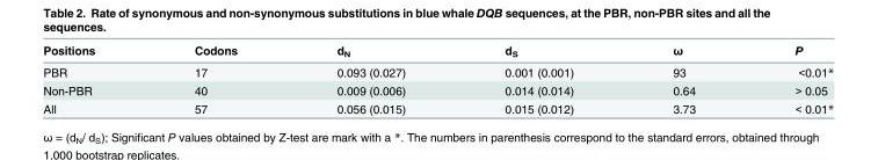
<table><thead><tr><td>Positions</td><td>Codons</td><td>d<sub>N</sub></td><td>d<sub>S</sub></td><td>ω</td><td>P</td></tr></thead><tbody><tr><td>PBR</td><td>17</td><td>0.093 (0.027)</td><td>0.001 (0.001)</td><td>93</td><td>&lt;0.01*</td></tr><tr><td>Non-PBR</td><td>40</td><td>0.009 (0.006)</td><td>0.014 (0.014)</td><td>0.64</td><td>&gt; 0.05</td></tr><tr><td>All</td><td>57</td><td>0.056 (0.015)</td><td>0.015 (0.012)</td><td>3.73</td><td>&lt; 0.01*</td></tr></tbody></table>